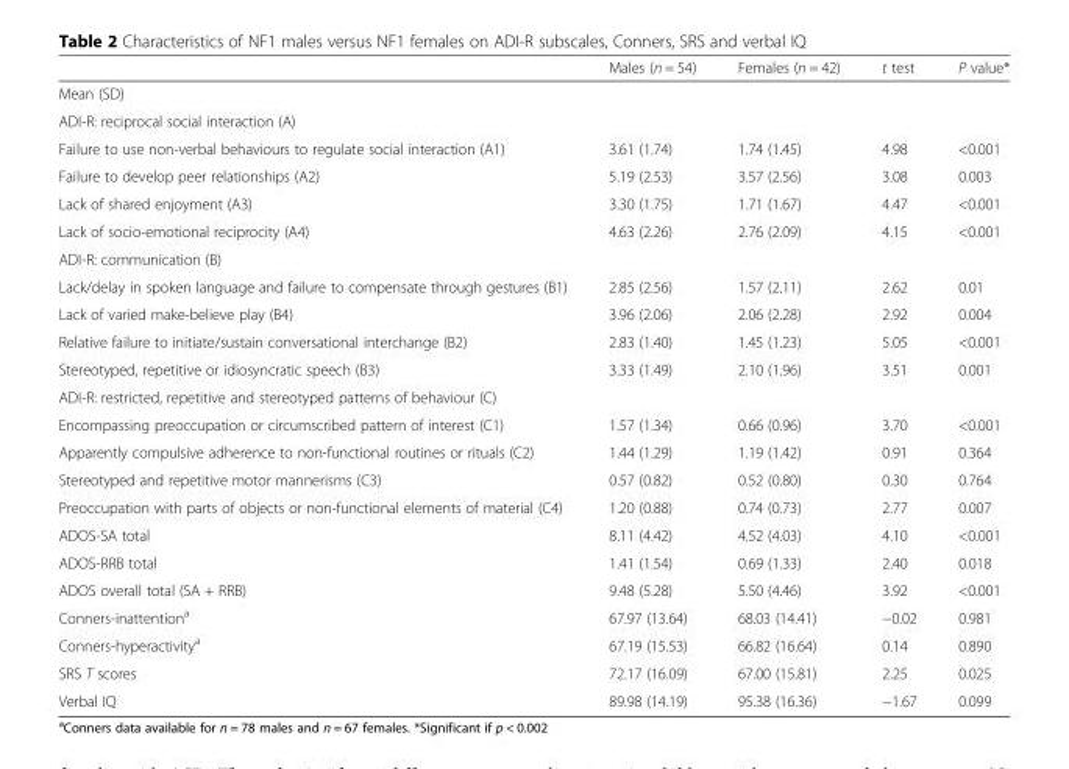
<table><thead><tr><td></td><td>Males (n = 54)</td><td>Females (n = 42)</td><td>t test</td><td>P value*</td></tr></thead><tbody><tr><td colspan="5">Mean (SD)</td></tr><tr><td colspan="5">ADI-R: reciprocal social interaction (A)</td></tr><tr><td>Failure to use non-verbal behaviours to regulate social interaction (A1)</td><td>3.61 (1.74)</td><td>1.74 (1.45)</td><td>4.98</td><td>&lt;0.001</td></tr><tr><td>Failure to develop peer relationships (A2)</td><td>5.19 (2.53)</td><td>3.57 (2.56)</td><td>3.08</td><td>0.003</td></tr><tr><td>Lack of shared enjoyment (A3)</td><td>3.30 (1.75)</td><td>1.71 (1.67)</td><td>4.47</td><td>&lt;0.001</td></tr><tr><td>Lack of socio-emotional reciprocity (A4)</td><td>4.63 (2.26)</td><td>2.76 (2.09)</td><td>4.15</td><td>&lt;0.001</td></tr><tr><td colspan="5">ADI-R: communication (B)</td></tr><tr><td>Lack/delay in spoken language and failure to compensate through gestures (B1)</td><td>2.85 (2.56)</td><td>1.57 (2.11)</td><td>2.62</td><td>0.01</td></tr><tr><td>Lack of varied make-believe play (B4)</td><td>3.96 (2.06)</td><td>2.06 (2.28)</td><td>2.92</td><td>0.004</td></tr><tr><td>Relative failure to initiate/sustain conversational interchange (B2)</td><td>2.83 (1.40)</td><td>1.45 (1.23)</td><td>5.05</td><td>&lt;0.001</td></tr><tr><td>Stereotyped, repetitive or idiosyncratic speech (B3)</td><td>3.33 (1.49)</td><td>2.10 (1.96)</td><td>3.51</td><td>0.001</td></tr><tr><td colspan="5">ADI-R: restricted, repetitive and stereotyped patterns of behaviour (C)</td></tr><tr><td>Encompassing preoccupation or circumscribed pattern of interest (C1)</td><td>1.57 (1.34)</td><td>0.66 (0.96)</td><td>3.70</td><td>&lt;0.001</td></tr><tr><td>Apparently compulsive adherence to non-functional routines or rituals (C2)</td><td>1.44 (1.29)</td><td>1.19 (1.42)</td><td>0.91</td><td>0.364</td></tr><tr><td>Stereotyped and repetitive motor mannerisms (C3)</td><td>0.57 (0.82)</td><td>0.52 (0.80)</td><td>0.30</td><td>0.764</td></tr><tr><td>Preoccupation with parts of objects or non-functional elements of material (C4)</td><td>1.20 (0.88)</td><td>0.74 (0.73)</td><td>2.77</td><td>0.007</td></tr><tr><td>ADOS-SA total</td><td>8.11 (4.42)</td><td>4.52 (4.03)</td><td>4.10</td><td>&lt;0.001</td></tr><tr><td>ADOS-RRB total</td><td>1.41 (1.54)</td><td>0.69 (1.33)</td><td>2.40</td><td>0.018</td></tr><tr><td>ADOS overall total (SA + RRB)</td><td>9.48 (5.28)</td><td>5.50 (4.46)</td><td>3.92</td><td>&lt;0.001</td></tr><tr><td>Conners-inattention<sup>a</sup></td><td>67.97 (13.64)</td><td>68.03 (14.41)</td><td>−0.02</td><td>0.981</td></tr><tr><td>Conners-hyperactivity<sup>a</sup></td><td>67.19 (15.53)</td><td>66.82 (16.64)</td><td>0.14</td><td>0.890</td></tr><tr><td>SRS T scores</td><td>72.17 (16.09)</td><td>67.00 (15.81)</td><td>2.25</td><td>0.025</td></tr><tr><td>Verbal IQ</td><td>89.98 (14.19)</td><td>95.38 (16.36)</td><td>−1.67</td><td>0.099</td></tr></tbody></table>